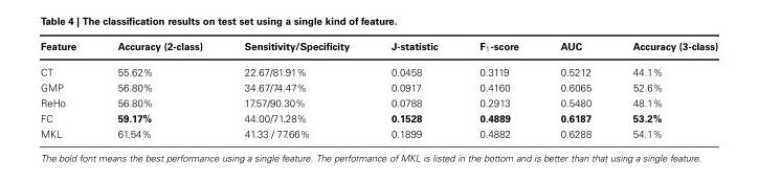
<table><thead><tr><td>Feature</td><td>Accuracy (2-class)</td><td>Sensitivity/Specificity</td><td>J-statistic</td><td>F<sub>1</sub>-score</td><td>AUC</td><td>Accuracy (3-class)</td></tr></thead><tbody><tr><td>CT</td><td>55.62%</td><td>22.67/81.91%</td><td>0.0458</td><td>0.3119</td><td>0.5212</td><td>44.1%</td></tr><tr><td>GMP</td><td>56.80%</td><td>34.67/74.47%</td><td>0.0917</td><td>0.4160</td><td>0.6065</td><td>52.6%</td></tr><tr><td>ReHo</td><td>56.80%</td><td>17.57/90.30%</td><td>0.0788</td><td>0.2913</td><td>0.5480</td><td>48.1%</td></tr><tr><td>FC</td><td>59.17%</td><td>44.00/71.28%</td><td>0.1528</td><td>0.4889</td><td>0.6187</td><td>53.2%</td></tr><tr><td>MKL</td><td>61.54%</td><td>41.33 / 77.66%</td><td>0.1899</td><td>0.4882</td><td>0.6288</td><td>54.1%</td></tr></tbody></table>